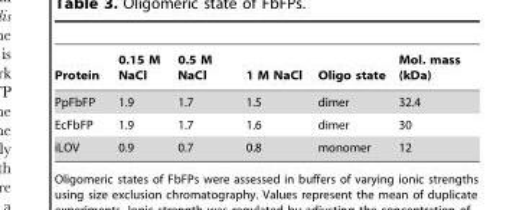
<table><thead><tr><td>Protein</td><td>0.15 M NaCl</td><td>0.5 M NaCl</td><td>1 M NaCl</td><td>Oligo state</td><td>Mol. mass (kDa)</td></tr></thead><tbody><tr><td>PpFbFP</td><td>1.9</td><td>1.7</td><td>1.5</td><td>dimer</td><td>32.4</td></tr><tr><td>EcFbFP</td><td>1.9</td><td>1.7</td><td>1.6</td><td>dimer</td><td>30</td></tr><tr><td>iLOV</td><td>0.9</td><td>0.7</td><td>0.8</td><td>monomer</td><td>12</td></tr></tbody></table>